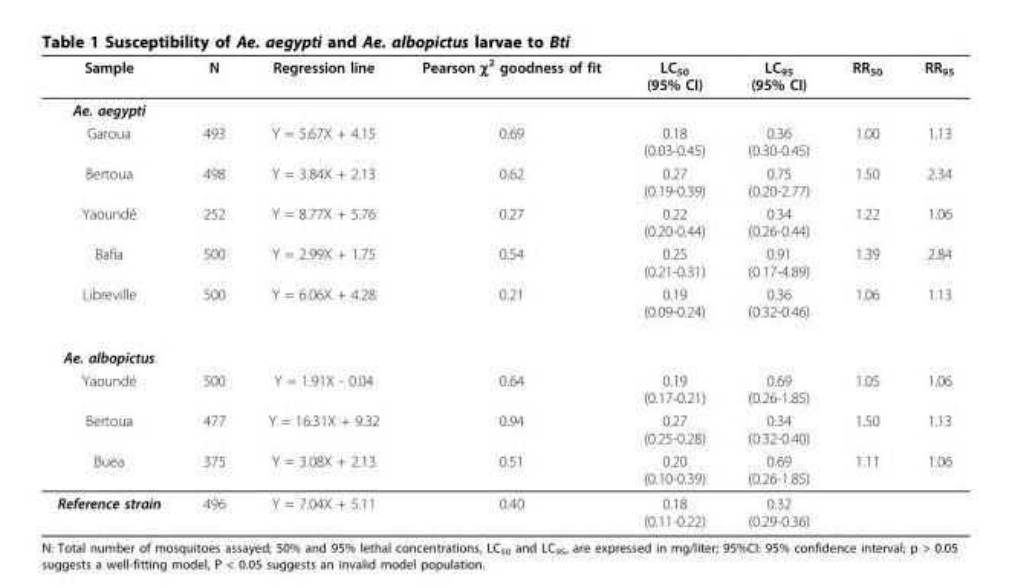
<table><thead><tr><td>Sample</td><td>N</td><td>Regression line</td><td>Pearson χ<sup>2</sup> goodness of fit</td><td>LC<sub>50</sub> (95% CI)</td><td>LC<sub>95</sub> (95% CI)</td><td>RR<sub>50</sub></td><td>RR<sub>95</sub></td></tr></thead><tbody><tr><td colspan="8">Ae. aegypti</td></tr><tr><td>Garoua</td><td>493</td><td>Y = 5.67X + 4.15</td><td>0.69</td><td>0.18 (0.03-0.45)</td><td>0.36 (0.30-0.45)</td><td>1.00</td><td>1.13</td></tr><tr><td>Bertoua</td><td>498</td><td>Y = 3.84X + 2.13</td><td>0.62</td><td>0.27 (0.19-0.39)</td><td>0.75 (0.20-2.77)</td><td>1.50</td><td>2.34</td></tr><tr><td>Yaoundé</td><td>252</td><td>Y = 8.77X + 5.76</td><td>0.27</td><td>0.22 (0.20-0.44)</td><td>0.34 (0.26-0.44)</td><td>1.22</td><td>1.06</td></tr><tr><td>Bafia</td><td>500</td><td>Y = 2.99X + 1.75</td><td>0.54</td><td>0.25 (0.21-0.31)</td><td>0.91 (0.17-4.89)</td><td>1.39</td><td>2.84</td></tr><tr><td>Libreville</td><td>500</td><td>Y = 6.06X + 4.28</td><td>0.21</td><td>0.19 (0.09-0.24)</td><td>0.36 (0.32-0.46)</td><td>1.06</td><td>1.13</td></tr><tr><td colspan="8">Ae. albopictus</td></tr><tr><td>Yaoundé</td><td>500</td><td>Y = 1.91X - 0.04</td><td>0.64</td><td>0.19 (0.17-0.21)</td><td>0.69 (0.26-1.85)</td><td>1.05</td><td>1.06</td></tr><tr><td>Bertoua</td><td>477</td><td>Y = 16.31X + 9.32</td><td>0.94</td><td>0.27 (0.25-0.28)</td><td>0.34 (0.32-0.40)</td><td>1.50</td><td>1.13</td></tr><tr><td>Buea</td><td>375</td><td>Y = 3.08X + 2.13</td><td>0.51</td><td>0.20 (0.10-0.39)</td><td>0.69 (0.26-1.85)</td><td>1.11</td><td>1.06</td></tr><tr><td>Reference strain</td><td>496</td><td>Y = 7.04X + 5.11</td><td>0.40</td><td>0.18 (0.11-0.22)</td><td>0.32 (0.29-0.36)</td><td></td><td></td></tr></tbody></table>